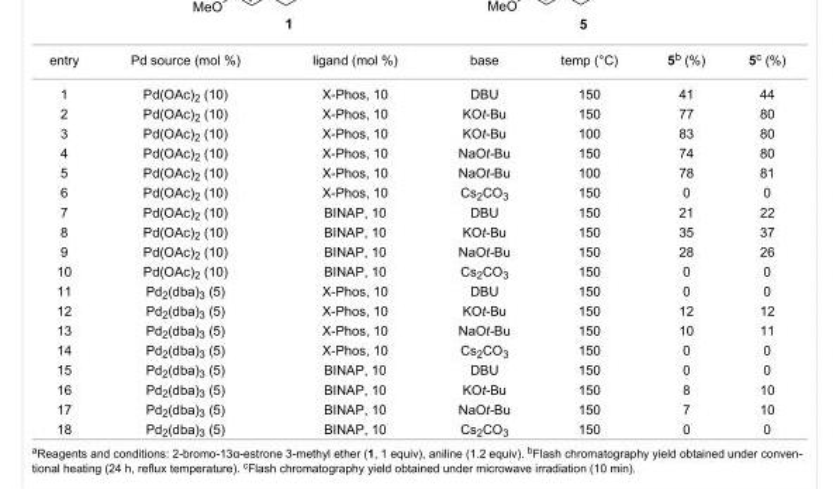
<table><tbody><tr><td>entry</td><td>Pd source (mol %)</td><td>ligand (mol %)</td><td>base</td><td>temp (°C)</td><td>5<sup>b</sup> (%)</td><td>5<sup>c</sup> (%)</td></tr><tr><td>1</td><td>Pd(OAc)<sub>2</sub> (10)</td><td>X-Phos, 10</td><td>DBU</td><td>150</td><td>41</td><td>44</td></tr><tr><td>2</td><td>Pd(OAc)<sub>2</sub> (10)</td><td>X-Phos, 10</td><td>KOt-Bu</td><td>150</td><td>77</td><td>80</td></tr><tr><td>3</td><td>Pd(OAc)<sub>2</sub> (10)</td><td>X-Phos, 10</td><td>KOt-Bu</td><td>100</td><td>83</td><td>80</td></tr><tr><td>4</td><td>Pd(OAc)<sub>2</sub> (10)</td><td>X-Phos, 10</td><td>NaOt-Bu</td><td>150</td><td>74</td><td>80</td></tr><tr><td>5</td><td>Pd(OAc)<sub>2</sub> (10)</td><td>X-Phos, 10</td><td>NaOt-Bu</td><td>100</td><td>78</td><td>81</td></tr><tr><td>6</td><td>Pd(OAc)<sub>2</sub> (10)</td><td>X-Phos, 10</td><td>Cs<sub>2</sub>CO<sub>3</sub></td><td>150</td><td>0</td><td>0</td></tr><tr><td>7</td><td>Pd(OAc)<sub>2</sub> (10)</td><td>BINAP, 10</td><td>DBU</td><td>150</td><td>21</td><td>22</td></tr><tr><td>8</td><td>Pd(OAc)<sub>2</sub> (10)</td><td>BINAP, 10</td><td>KOt-Bu</td><td>150</td><td>35</td><td>37</td></tr><tr><td>9</td><td>Pd(OAc)<sub>2</sub> (10)</td><td>BINAP, 10</td><td>NaOt-Bu</td><td>150</td><td>28</td><td>26</td></tr><tr><td>10</td><td>Pd(OAc)<sub>2</sub> (10)</td><td>BINAP, 10</td><td>Cs<sub>2</sub>CO<sub>3</sub></td><td>150</td><td>0</td><td>0</td></tr><tr><td>11</td><td>Pd<sub>2</sub>(dba)<sub>3</sub> (5)</td><td>X-Phos, 10</td><td>DBU</td><td>150</td><td>0</td><td>0</td></tr><tr><td>12</td><td>Pd<sub>2</sub>(dba)<sub>3</sub> (5)</td><td>X-Phos, 10</td><td>KOt-Bu</td><td>150</td><td>12</td><td>12</td></tr><tr><td>13</td><td>Pd<sub>2</sub>(dba)<sub>3</sub> (5)</td><td>X-Phos, 10</td><td>NaOt-Bu</td><td>150</td><td>10</td><td>11</td></tr><tr><td>14</td><td>Pd<sub>2</sub>(dba)<sub>3</sub> (5)</td><td>X-Phos, 10</td><td>Cs<sub>2</sub>CO<sub>3</sub></td><td>150</td><td>0</td><td>0</td></tr><tr><td>15</td><td>Pd<sub>2</sub>(dba)<sub>3</sub> (5)</td><td>BINAP, 10</td><td>DBU</td><td>150</td><td>0</td><td>0</td></tr><tr><td>16</td><td>Pd<sub>2</sub>(dba)<sub>3</sub> (5)</td><td>BINAP, 10</td><td>KOt-Bu</td><td>150</td><td>8</td><td>10</td></tr><tr><td>17</td><td>Pd<sub>2</sub>(dba)<sub>3</sub> (5)</td><td>BINAP, 10</td><td>NaOt-Bu</td><td>150</td><td>7</td><td>10</td></tr><tr><td>18</td><td>Pd<sub>2</sub>(dba)<sub>3</sub> (5)</td><td>BINAP, 10</td><td>Cs<sub>2</sub>CO<sub>3</sub></td><td>150</td><td>0</td><td>0</td></tr></tbody></table>